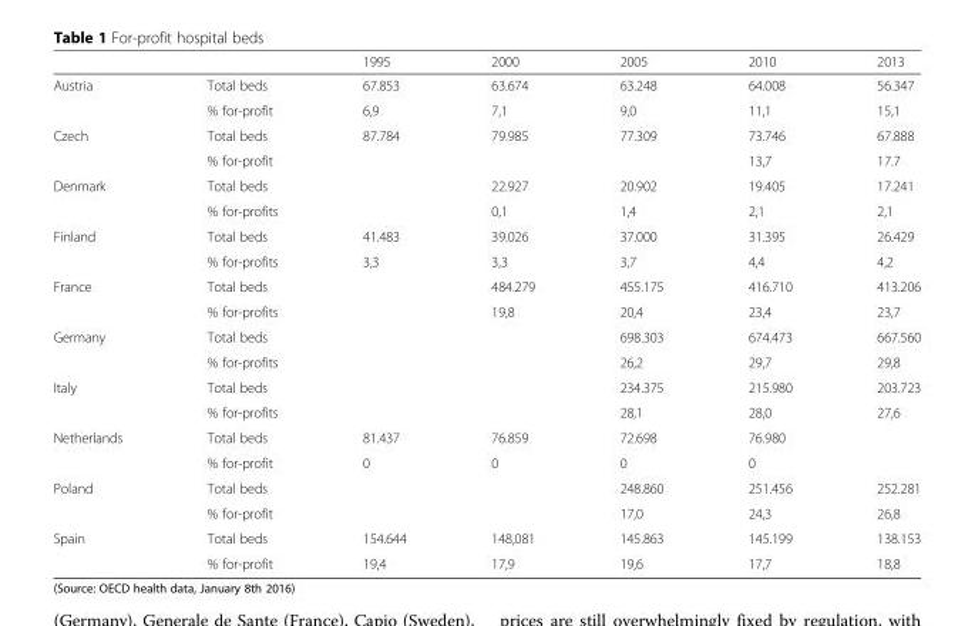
<table><thead><tr><td></td><td></td><td>1995</td><td>2000</td><td>2005</td><td>2010</td><td>2013</td></tr></thead><tbody><tr><td rowspan="2">Austria</td><td>Total beds</td><td>67.853</td><td>63.674</td><td>63.248</td><td>64.008</td><td>56.347</td></tr><tr><td>% for-profit</td><td>6,9</td><td>7,1</td><td>9,0</td><td>11,1</td><td>15,1</td></tr><tr><td rowspan="2">Czech</td><td>Total beds</td><td>87.784</td><td>79.985</td><td>77.309</td><td>73.746</td><td>67.888</td></tr><tr><td>% for-profit</td><td></td><td></td><td></td><td>13,7</td><td>17.7</td></tr><tr><td rowspan="2">Denmark</td><td>Total beds</td><td></td><td>22.927</td><td>20.902</td><td>19.405</td><td>17.241</td></tr><tr><td>% for-profits</td><td></td><td>0,1</td><td>1,4</td><td>2,1</td><td>2,1</td></tr><tr><td rowspan="2">Finland</td><td>Total beds</td><td>41.483</td><td>39.026</td><td>37.000</td><td>31.395</td><td>26.429</td></tr><tr><td>% for-profits</td><td>3,3</td><td>3,3</td><td>3,7</td><td>4,4</td><td>4,2</td></tr><tr><td rowspan="2">France</td><td>Total beds</td><td></td><td>484.279</td><td>455.175</td><td>416.710</td><td>413.206</td></tr><tr><td>% for-profits</td><td></td><td>19,8</td><td>20,4</td><td>23,4</td><td>23,7</td></tr><tr><td rowspan="2">Germany</td><td>Total beds</td><td></td><td></td><td>698.303</td><td>674.473</td><td>667.560</td></tr><tr><td>% for-profits</td><td></td><td></td><td>26,2</td><td>29,7</td><td>29,8</td></tr><tr><td rowspan="2">Italy</td><td>Total beds</td><td></td><td></td><td>234.375</td><td>215.980</td><td>203.723</td></tr><tr><td>% for-profits</td><td></td><td></td><td>28,1</td><td>28,0</td><td>27,6</td></tr><tr><td rowspan="2">Netherlands</td><td>Total beds</td><td>81.437</td><td>76.859</td><td>72.698</td><td>76.980</td><td></td></tr><tr><td>% for-profit</td><td>0</td><td>0</td><td>0</td><td>0</td><td></td></tr><tr><td rowspan="2">Poland</td><td>Total beds</td><td></td><td></td><td>248.860</td><td>251.456</td><td>252.281</td></tr><tr><td>% for-profit</td><td></td><td></td><td>17,0</td><td>24,3</td><td>26,8</td></tr><tr><td rowspan="2">Spain</td><td>Total beds</td><td>154.644</td><td>148,081</td><td>145.863</td><td>145.199</td><td>138.153</td></tr><tr><td>% for-profit</td><td>19,4</td><td>17,9</td><td>19,6</td><td>17,7</td><td>18,8</td></tr></tbody></table>